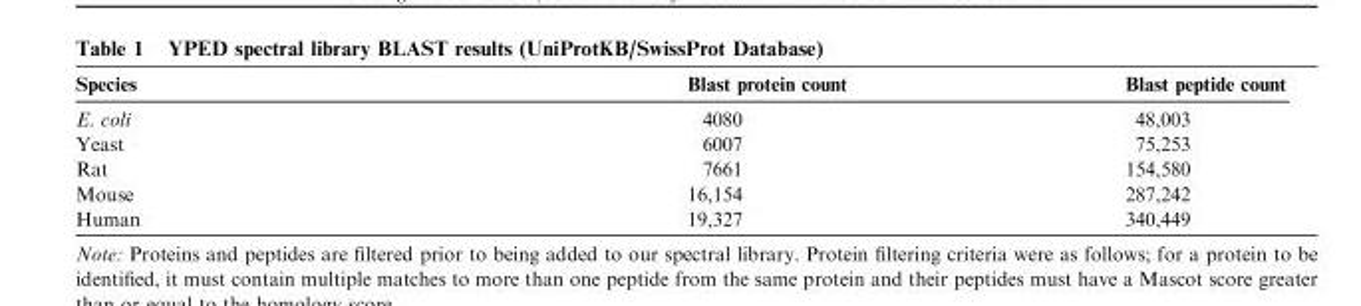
<table><thead><tr><td>Species</td><td>Blast protein count</td><td>Blast peptide count</td></tr></thead><tbody><tr><td>E. coli</td><td>4080</td><td>48,003</td></tr><tr><td>Yeast</td><td>6007</td><td>75,253</td></tr><tr><td>Rat</td><td>7661</td><td>154,580</td></tr><tr><td>Mouse</td><td>16,154</td><td>287,242</td></tr><tr><td>Human</td><td>19,327</td><td>340,449</td></tr></tbody></table>